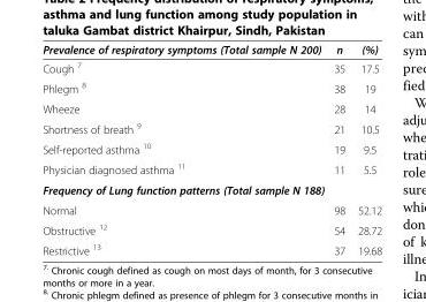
<table><thead><tr><td>Prevalence of respiratory symptoms (Total sample N 200)</td><td>n</td><td>(%)</td></tr></thead><tbody><tr><td>Cough <sup>7</sup></td><td>35</td><td>17.5</td></tr><tr><td>Phlegm <sup>8</sup></td><td>38</td><td>19</td></tr><tr><td>Wheeze</td><td>28</td><td>14</td></tr><tr><td>Shortness of breath <sup>9</sup></td><td>21</td><td>10.5</td></tr><tr><td>Self-reported asthma <sup>10</sup></td><td>19</td><td>9.5</td></tr><tr><td>Physician diagnosed asthma <sup>11</sup></td><td>11</td><td>5.5</td></tr><tr><td colspan="3">Frequency of Lung function patterns (Total sample N 188)</td></tr><tr><td>Normal</td><td>98</td><td>52.12</td></tr><tr><td>Obstructive <sup>12</sup></td><td>54</td><td>28.72</td></tr><tr><td>Restrictive <sup>13</sup></td><td>37</td><td>19.68</td></tr></tbody></table>